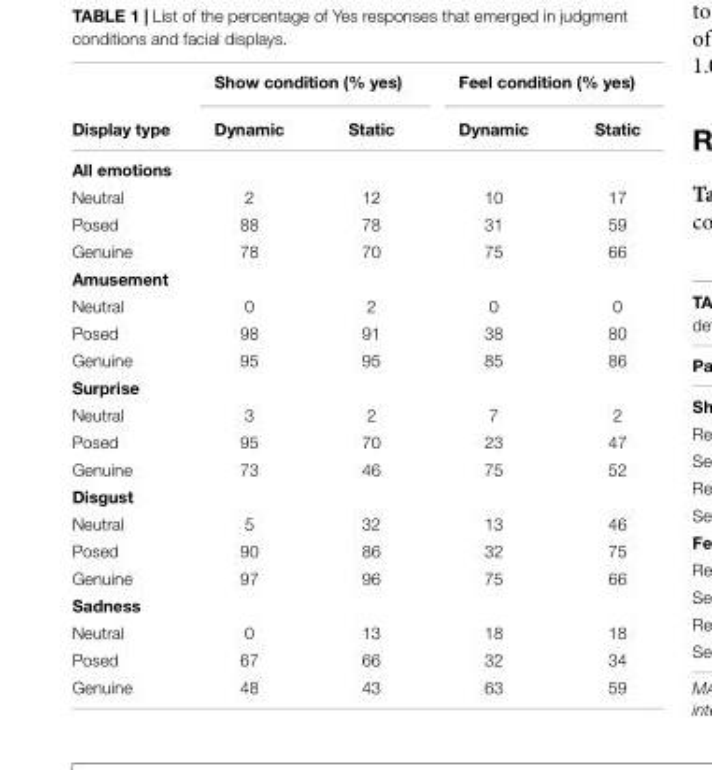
<table><thead><tr><td rowspan="2">Display type</td><td colspan="2">Show condition (% yes)</td><td colspan="2">Feel condition (% yes)</td></tr><tr><td>Dynamic</td><td>Static</td><td>Dynamic</td><td>Static</td></tr></thead><tbody><tr><td colspan="5">All emotions</td></tr><tr><td>Neutral</td><td>2</td><td>12</td><td>10</td><td>17</td></tr><tr><td>Posed</td><td>88</td><td>78</td><td>31</td><td>59</td></tr><tr><td>Genuine</td><td>78</td><td>70</td><td>75</td><td>66</td></tr><tr><td colspan="5">Amusement</td></tr><tr><td>Neutral</td><td>0</td><td>2</td><td>0</td><td>0</td></tr><tr><td>Posed</td><td>98</td><td>91</td><td>38</td><td>80</td></tr><tr><td>Genuine</td><td>95</td><td>95</td><td>85</td><td>86</td></tr><tr><td colspan="5">Surprise</td></tr><tr><td>Neutral</td><td>3</td><td>2</td><td>7</td><td>2</td></tr><tr><td>Posed</td><td>95</td><td>70</td><td>23</td><td>47</td></tr><tr><td>Genuine</td><td>73</td><td>46</td><td>75</td><td>52</td></tr><tr><td colspan="5">Disgust</td></tr><tr><td>Neutral</td><td>5</td><td>32</td><td>13</td><td>46</td></tr><tr><td>Posed</td><td>90</td><td>86</td><td>32</td><td>75</td></tr><tr><td>Genuine</td><td>97</td><td>96</td><td>75</td><td>66</td></tr><tr><td colspan="5">Sadness</td></tr><tr><td>Neutral</td><td>0</td><td>13</td><td>18</td><td>18</td></tr><tr><td>Posed</td><td>67</td><td>66</td><td>32</td><td>34</td></tr><tr><td>Genuine</td><td>48</td><td>43</td><td>63</td><td>59</td></tr></tbody></table>